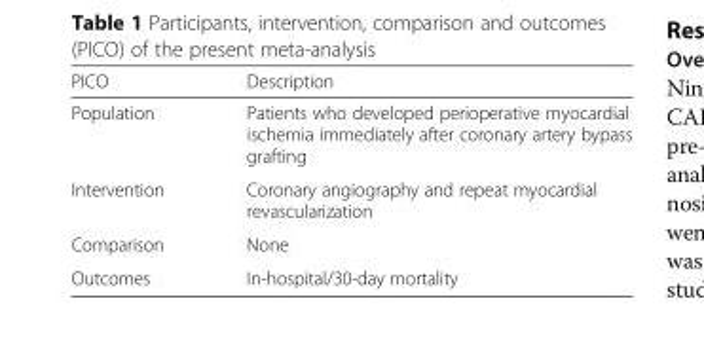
<table><thead><tr><td>PICO</td><td>Description</td></tr></thead><tbody><tr><td>Population</td><td>Patients who developed perioperative myocardial ischemia immediately after coronary artery bypass grafting</td></tr><tr><td>Intervention</td><td>Coronary angiography and repeat myocardial revascularization</td></tr><tr><td>Comparison</td><td>None</td></tr><tr><td>Outcomes</td><td>In-hospital/30-day mortality</td></tr></tbody></table>